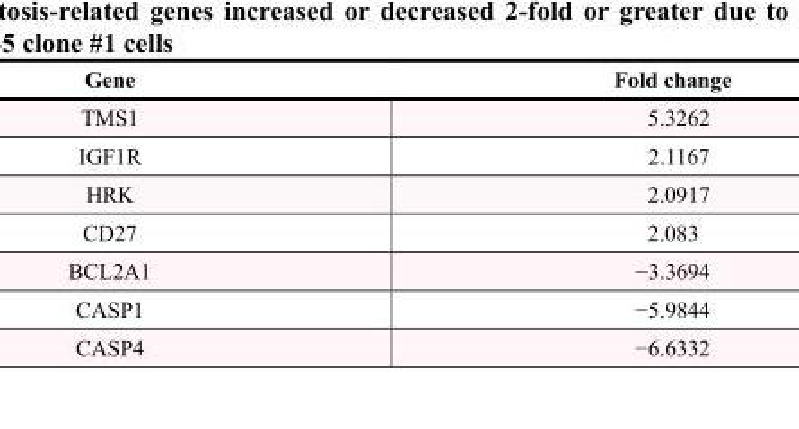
<table><thead><tr><td>Gene</td><td>Fold change</td></tr></thead><tbody><tr><td>TMS1</td><td>5.3262</td></tr><tr><td>IGF1R</td><td>2.1167</td></tr><tr><td>HRK</td><td>2.0917</td></tr><tr><td>CD27</td><td>2.083</td></tr><tr><td>BCL2A1</td><td>−3.3694</td></tr><tr><td>CASP1</td><td>−5.9844</td></tr><tr><td>CASP4</td><td>−6.6332</td></tr></tbody></table>